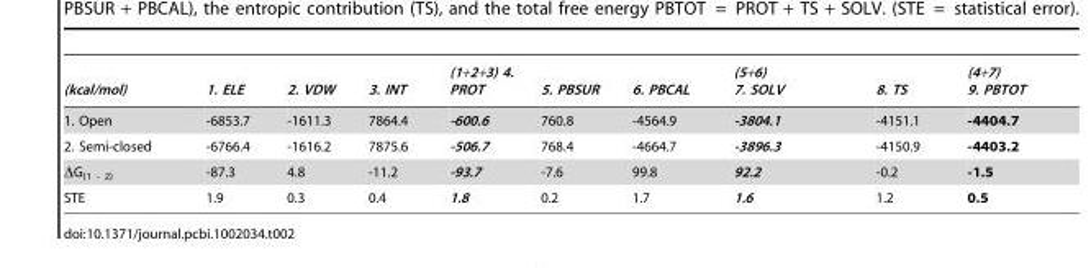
<table><thead><tr><td>(kcal/mol)</td><td>1. ELE</td><td>2. VDW</td><td>3. INT</td><td>(1+2+3) 4. PROT</td><td>5. PBSUR</td><td>6. PBCAL</td><td>(5+6) 7. SOLV</td><td>8. TS</td><td>(4+7) 9. PBTOT</td></tr></thead><tbody><tr><td>1. Open</td><td>-6853.7</td><td>-1611.3</td><td>7864.4</td><td>-600.6</td><td>760.8</td><td>-4564.9</td><td>-3804.1</td><td>-4151.1</td><td>-4404.7</td></tr><tr><td>2. Semi-closed</td><td>-6766.4</td><td>-1616.2</td><td>7875.6</td><td>-506.7</td><td>768.4</td><td>-4664.7</td><td>-3896.3</td><td>-4150.9</td><td>-4403.2</td></tr><tr><td>ΔG<sub>(1 - 2)</sub></td><td>-87.3</td><td>4.8</td><td>-11.2</td><td>-93.7</td><td>-7.6</td><td>99.8</td><td>92.2</td><td>-0.2</td><td>-1.5</td></tr><tr><td>STE</td><td>1.9</td><td>0.3</td><td>0.4</td><td>1.8</td><td>0.2</td><td>1.7</td><td>1.6</td><td>1.2</td><td>0.5</td></tr></tbody></table>